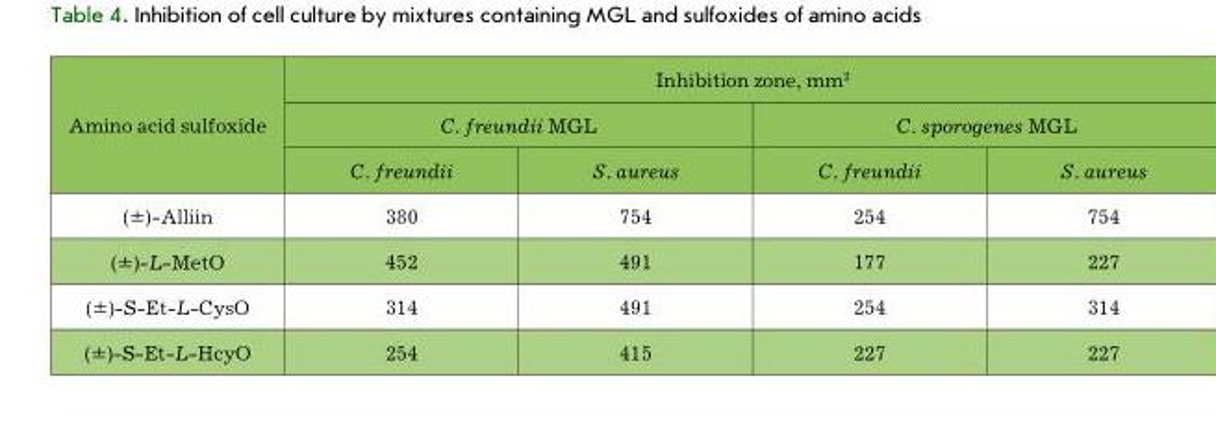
<table><thead><tr><td rowspan="3">Amino acid sulfoxide</td><td colspan="4">Inhibition zone, mm<sup>2</sup></td></tr><tr><td colspan="2">C. freundii MGL</td><td colspan="2">C. sporogenes MGL</td></tr><tr><td>C. freundii</td><td>S. aureus</td><td>C. freundii</td><td>S. aureus</td></tr></thead><tbody><tr><td>(±)-Alliin</td><td>380</td><td>754</td><td>254</td><td>754</td></tr><tr><td>(±)-L-MetO</td><td>452</td><td>491</td><td>177</td><td>227</td></tr><tr><td>(±)-S-Et-L-CysO</td><td>314</td><td>491</td><td>254</td><td>314</td></tr><tr><td>(±)-S-Et-L-HcyO</td><td>254</td><td>415</td><td>227</td><td>227</td></tr></tbody></table>